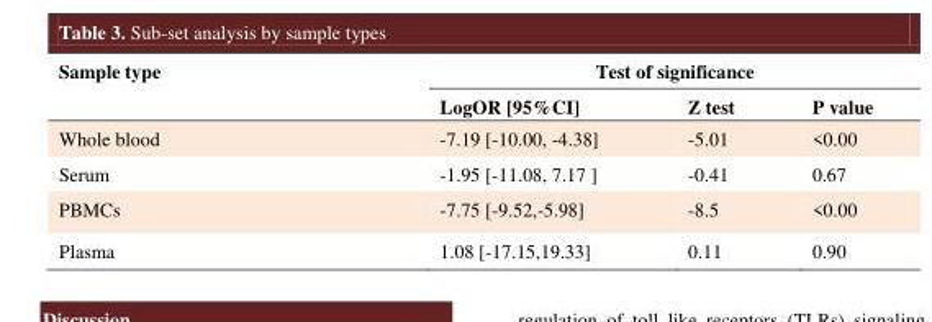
<table><thead><tr><td rowspan="2">Sample type</td><td colspan="3">Test of significance</td></tr><tr><td>LogOR [95%CI]</td><td>Z test</td><td>P value</td></tr></thead><tbody><tr><td>Whole blood</td><td>-7.19 [-10.00, -4.38]</td><td>-5.01</td><td>&lt;0.00</td></tr><tr><td>Serum</td><td>-1.95 [-11.08, 7.17 ]</td><td>-0.41</td><td>0.67</td></tr><tr><td>PBMCs</td><td>-7.75 [-9.52,-5.98]</td><td>-8.5</td><td>&lt;0.00</td></tr><tr><td>Plasma</td><td>1.08 [-17.15,19.33]</td><td>0.11</td><td>0.90</td></tr></tbody></table>